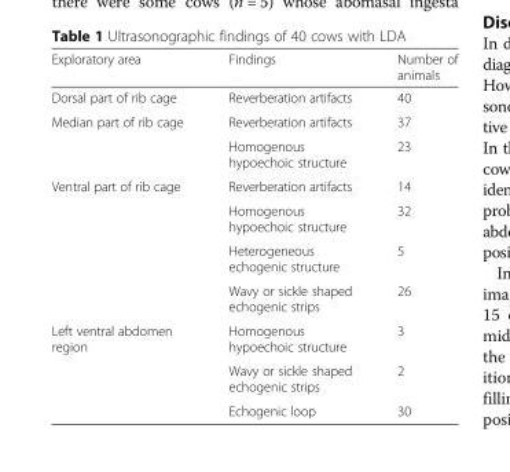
<table><thead><tr><td>Exploratory area</td><td>Findings</td><td>Number of animals</td></tr></thead><tbody><tr><td>Dorsal part of rib cage</td><td>Reverberation artifacts</td><td>40</td></tr><tr><td rowspan="2">Median part of rib cage</td><td>Reverberation artifacts</td><td>37</td></tr><tr><td>Homogenous hypoechoic structure</td><td>23</td></tr><tr><td rowspan="4">Ventral part of rib cage</td><td>Reverberation artifacts</td><td>14</td></tr><tr><td>Homogenous hypoechoic structure</td><td>32</td></tr><tr><td>Heterogeneous echogenic structure</td><td>5</td></tr><tr><td>Wavy or sickle shaped echogenic strips</td><td>26</td></tr><tr><td rowspan="3">Left ventral abdomen region</td><td>Homogenous hypoechoic structure</td><td>3</td></tr><tr><td>Wavy or sickle shaped echogenic strips</td><td>2</td></tr><tr><td>Echogenic loop</td><td>30</td></tr></tbody></table>